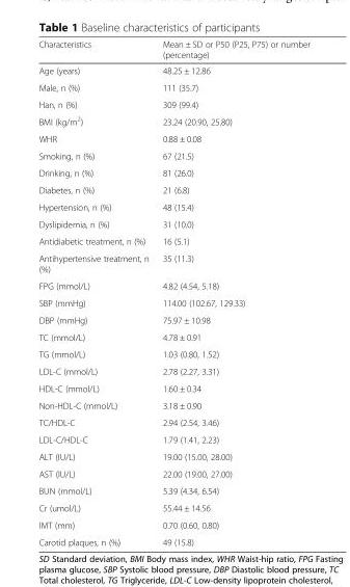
<table><thead><tr><td>Characteristics</td><td>Mean ± SD or P50 (P25, P75) or number (percentage)</td></tr></thead><tbody><tr><td>Age (years)</td><td>48.25 ± 12.86</td></tr><tr><td>Male, n (%)</td><td>111 (35.7)</td></tr><tr><td>Han, n (%)</td><td>309 (99.4)</td></tr><tr><td>BMI (kg/m<sup>2</sup>)</td><td>23.24 (20.90, 25.80)</td></tr><tr><td>WHR</td><td>0.88 ± 0.08</td></tr><tr><td>Smoking, n (%)</td><td>67 (21.5)</td></tr><tr><td>Drinking, n (%)</td><td>81 (26.0)</td></tr><tr><td>Diabetes, n (%)</td><td>21 (6.8)</td></tr><tr><td>Hypertension, n (%)</td><td>48 (15.4)</td></tr><tr><td>Dyslipidemia, n (%)</td><td>31 (10.0)</td></tr><tr><td>Antidiabetic treatment, n (%)</td><td>16 (5.1)</td></tr><tr><td>Antihypertensive treatment, n (%)</td><td>35 (11.3)</td></tr><tr><td>FPG (mmol/L)</td><td>4.82 (4.54, 5.18)</td></tr><tr><td>SBP (mmHg)</td><td>114.00 (102.67, 129.33)</td></tr><tr><td>DBP (mmHg)</td><td>75.97 ± 10.98</td></tr><tr><td>TC (mmol/L)</td><td>4.78 ± 0.91</td></tr><tr><td>TG (mmol/L)</td><td>1.03 (0.80, 1.52)</td></tr><tr><td>LDL-C (mmol/L)</td><td>2.78 (2.27, 3.31)</td></tr><tr><td>HDL-C (mmol/L)</td><td>1.60 ± 0.34</td></tr><tr><td>Non-HDL-C (mmol/L)</td><td>3.18 ± 0.90</td></tr><tr><td>TC/HDL-C</td><td>2.94 (2.54, 3.46)</td></tr><tr><td>LDL-C/HDL-C</td><td>1.79 (1.41, 2.23)</td></tr><tr><td>ALT (IU/L)</td><td>19.00 (15.00, 28.00)</td></tr><tr><td>AST (IU/L)</td><td>22.00 (19.00, 27.00)</td></tr><tr><td>BUN (mmol/L)</td><td>5.39 (4.34, 6.54)</td></tr><tr><td>Cr (umol/L)</td><td>55.44 ± 14.56</td></tr><tr><td>IMT (mm)</td><td>0.70 (0.60, 0.80)</td></tr><tr><td>Carotid plaques, n (%)</td><td>49 (15.8)</td></tr></tbody></table>